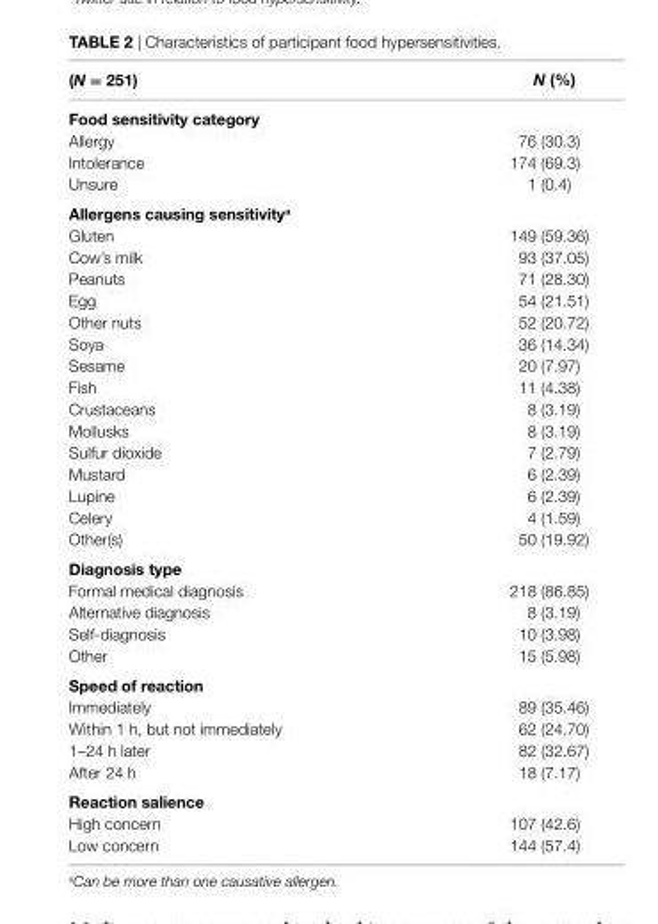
<table><thead><tr><td>(N = 251)</td><td>N (%)</td></tr></thead><tbody><tr><td colspan="2">Food sensitivity category</td></tr><tr><td>Allergy</td><td>76 (30.3)</td></tr><tr><td>Intolerance</td><td>174 (69.3)</td></tr><tr><td>Unsure</td><td>1 (0.4)</td></tr><tr><td colspan="2">allergens causing sensitivity<sup>a</sup></td></tr><tr><td>Gluten</td><td>149 (59.36)</td></tr><tr><td>Cow’s milk</td><td>93 (37.05)</td></tr><tr><td>Peanuts</td><td>71 (28.30)</td></tr><tr><td>Egg</td><td>54 (21.51)</td></tr><tr><td>Other nuts</td><td>52 (20.72)</td></tr><tr><td>Soya</td><td>36 (14.34)</td></tr><tr><td>Sesame</td><td>20 (7.97)</td></tr><tr><td>Fish</td><td>11 (4.38)</td></tr><tr><td>Crustaceans</td><td>8 (3.19)</td></tr><tr><td>Mollusks</td><td>8 (3.19)</td></tr><tr><td>Sulfur dioxide</td><td>7 (2.79)</td></tr><tr><td>Mustard</td><td>6 (2.39)</td></tr><tr><td>Lupine</td><td>6 (2.39)</td></tr><tr><td>Celery</td><td>4 (1.59)</td></tr><tr><td>Other(s)</td><td>50 (19.92)</td></tr><tr><td colspan="2">Diagnosis type</td></tr><tr><td>Formal medical diagnosis</td><td>218 (86.85)</td></tr><tr><td>Alternative diagnosis</td><td>8 (3.19)</td></tr><tr><td>Self-diagnosis</td><td>10 (3.98)</td></tr><tr><td>Other</td><td>15 (5.98)</td></tr><tr><td colspan="2">speed of reaction</td></tr><tr><td>Immediately</td><td>89 (35.46)</td></tr><tr><td>Within 1 h, but not immediately</td><td>62 (24.70)</td></tr><tr><td>1–24 h later</td><td>82 (32.67)</td></tr><tr><td>After 24 h</td><td>18 (7.17)</td></tr><tr><td colspan="2">reaction salience</td></tr><tr><td>High concern</td><td>107 (42.6)</td></tr><tr><td>Low concern</td><td>144 (57.4)</td></tr></tbody></table>